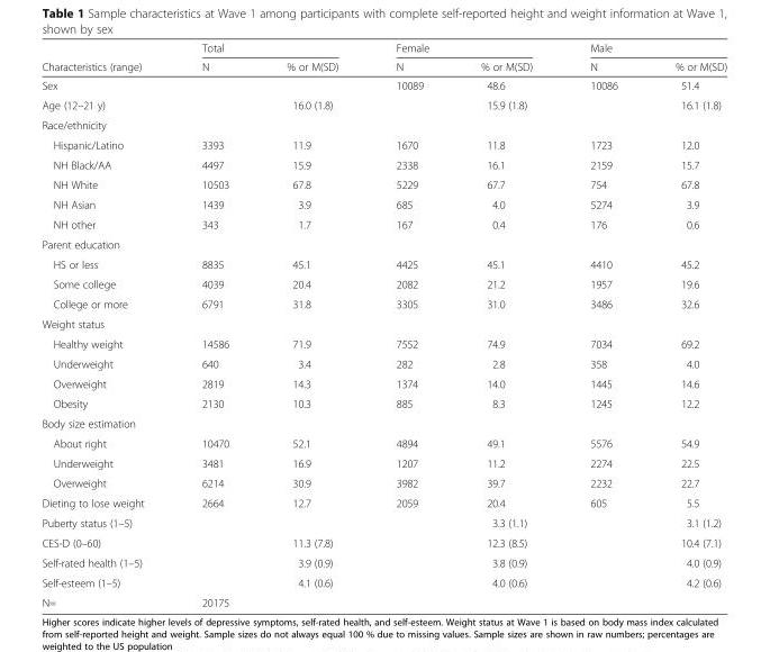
<table><thead><tr><td rowspan="2">Characteristics (range)</td><td colspan="2">Total</td><td colspan="2">Female</td><td colspan="2">Male</td></tr><tr><td>N</td><td>% or M(SD)</td><td>N</td><td>% or M(SD)</td><td>N</td><td>% or M(SD)</td></tr></thead><tbody><tr><td>Sex</td><td></td><td></td><td>10089</td><td>48.6</td><td>10086</td><td>51.4</td></tr><tr><td>Age (12–21 y)</td><td></td><td>16.0 (1.8)</td><td></td><td>15.9 (1.8)</td><td></td><td>16.1 (1.8)</td></tr><tr><td colspan="7">Race/ethnicity</td></tr><tr><td>Hispanic/Latino</td><td>3393</td><td>11.9</td><td>1670</td><td>11.8</td><td>1723</td><td>12.0</td></tr><tr><td>NH Black/AA</td><td>4497</td><td>15.9</td><td>2338</td><td>16.1</td><td>2159</td><td>15.7</td></tr><tr><td>NH White</td><td>10503</td><td>67.8</td><td>5229</td><td>67.7</td><td>754</td><td>67.8</td></tr><tr><td>NH Asian</td><td>1439</td><td>3.9</td><td>685</td><td>4.0</td><td>5274</td><td>3.9</td></tr><tr><td>NH other</td><td>343</td><td>1.7</td><td>167</td><td>0.4</td><td>176</td><td>0.6</td></tr><tr><td colspan="7">Parent education</td></tr><tr><td>HS or less</td><td>8835</td><td>45.1</td><td>4425</td><td>45.1</td><td>4410</td><td>45.2</td></tr><tr><td>Some college</td><td>4039</td><td>20.4</td><td>2082</td><td>21.2</td><td>1957</td><td>19.6</td></tr><tr><td>College or more</td><td>6791</td><td>31.8</td><td>3305</td><td>31.0</td><td>3486</td><td>32.6</td></tr><tr><td colspan="7">Weight status</td></tr><tr><td>Healthy weight</td><td>14586</td><td>71.9</td><td>7552</td><td>74.9</td><td>7034</td><td>69.2</td></tr><tr><td>Underweight</td><td>640</td><td>3.4</td><td>282</td><td>2.8</td><td>358</td><td>4.0</td></tr><tr><td>Overweight</td><td>2819</td><td>14.3</td><td>1374</td><td>14.0</td><td>1445</td><td>14.6</td></tr><tr><td>Obesity</td><td>2130</td><td>10.3</td><td>885</td><td>8.3</td><td>1245</td><td>12.2</td></tr><tr><td colspan="7">Body size estimation</td></tr><tr><td>About right</td><td>10470</td><td>52.1</td><td>4894</td><td>49.1</td><td>5576</td><td>54.9</td></tr><tr><td>Underweight</td><td>3481</td><td>16.9</td><td>1207</td><td>11.2</td><td>2274</td><td>22.5</td></tr><tr><td>Overweight</td><td>6214</td><td>30.9</td><td>3982</td><td>39.7</td><td>2232</td><td>22.7</td></tr><tr><td>Dieting to lose weight</td><td>2664</td><td>12.7</td><td>2059</td><td>20.4</td><td>605</td><td>5.5</td></tr><tr><td>Puberty status (1–5)</td><td></td><td></td><td></td><td>3.3 (1.1)</td><td></td><td>3.1 (1.2)</td></tr><tr><td>CES-D (0–60)</td><td></td><td>11.3 (7.8)</td><td></td><td>12.3 (8.5)</td><td></td><td>10.4 (7.1)</td></tr><tr><td>Self-rated health (1–5)</td><td></td><td>3.9 (0.9)</td><td></td><td>3.8 (0.9)</td><td></td><td>4.0 (0.9)</td></tr><tr><td>Self-esteem (1–5)</td><td></td><td>4.1 (0.6)</td><td></td><td>4.0 (0.6)</td><td></td><td>4.2 (0.6)</td></tr><tr><td>N=</td><td>20175</td><td></td><td></td><td></td><td></td><td></td></tr></tbody></table>